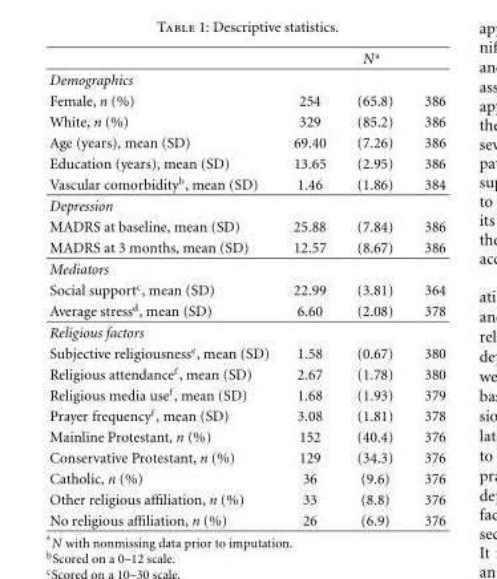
<table><thead><tr><td rowspan="2">Demographics</td><td colspan="3">N<sup>a</sup></td></tr><tr><td></td><td></td><td></td></tr></thead><tbody><tr><td>Female, n (%)</td><td>254</td><td>(65.8)</td><td>386</td></tr><tr><td>White, n (%)</td><td>329</td><td>(85.2)</td><td>386</td></tr><tr><td>Age (years), mean (SD)</td><td>69.40</td><td>(7.26)</td><td>386</td></tr><tr><td>Education (years), mean (SD)</td><td>13.65</td><td>(2.95)</td><td>386</td></tr><tr><td>Vascular comorbidity<sup>b</sup>, mean (SD)</td><td>1.46</td><td>(1.86)</td><td>384</td></tr><tr><td colspan="4">Depression</td></tr><tr><td>MADRS at baseline, mean (SD)</td><td>25.88</td><td>(7.84)</td><td>386</td></tr><tr><td>MADRS at 3 months, mean (SD)</td><td>12.57</td><td>(8.67)</td><td>386</td></tr><tr><td colspan="4">Mediators</td></tr><tr><td>Social support<sup>c</sup>, mean (SD)</td><td>22.99</td><td>(3.81)</td><td>364</td></tr><tr><td>Average stress<sup>d</sup>, mean (SD)</td><td>6.60</td><td>(2.08)</td><td>378</td></tr><tr><td colspan="4">Religious factors</td></tr><tr><td>Subjective religiousness<sup>e</sup>, mean (SD)</td><td>1.58</td><td>(0.67)</td><td>380</td></tr><tr><td>Religious attendance<sup>f</sup>, mean (SD)</td><td>2.67</td><td>(1.78)</td><td>380</td></tr><tr><td>Religious media use<sup>f</sup>, mean (SD)</td><td>1.68</td><td>(1.93)</td><td>379</td></tr><tr><td>Prayer frequency<sup>f</sup>, mean (SD)</td><td>3.08</td><td>(1.81)</td><td>378</td></tr><tr><td>Mainline Protestant, n (%)</td><td>152</td><td>(40.4)</td><td>376</td></tr><tr><td>Conservative Protestant, n (%)</td><td>129</td><td>(34.3)</td><td>376</td></tr><tr><td>Catholic, n (%)</td><td>36</td><td>(9.6)</td><td>376</td></tr><tr><td>Other religious affiliation, n (%)</td><td>33</td><td>(8.8)</td><td>376</td></tr><tr><td>No religious affiliation, n (%)</td><td>26</td><td>(6.9)</td><td>376</td></tr></tbody></table>